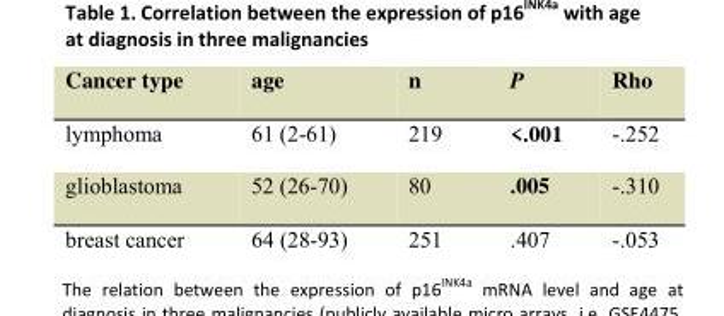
<table><thead><tr><td>Cancer type</td><td>age</td><td>n</td><td>P</td><td>Rho</td></tr></thead><tbody><tr><td>lymphoma</td><td>61 (2-61)</td><td>219</td><td>&lt;.001</td><td>-.252</td></tr><tr><td>glioblastoma</td><td>52 (26-70)</td><td>80</td><td>.005</td><td>-.310</td></tr><tr><td>breast cancer</td><td>64 (28-93)</td><td>251</td><td>.407</td><td>-.053</td></tr></tbody></table>